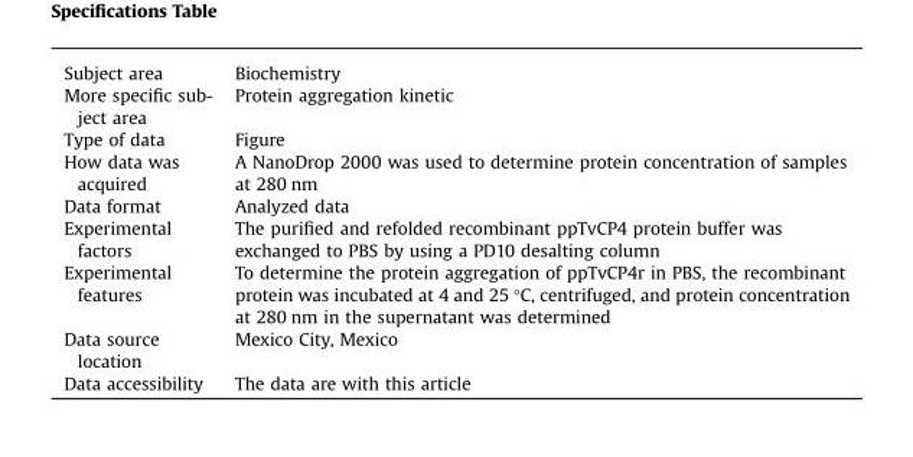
<table><tbody><tr><td>Subject area</td><td>Biochemistry</td></tr><tr><td>More specific sub- ject area</td><td>Protein aggregation kinetic</td></tr><tr><td>Type of data</td><td>Figure</td></tr><tr><td>How data was acquired</td><td>A NanoDrop 2000 was used to determine protein concentration of samples at 280 nm</td></tr><tr><td>Data format</td><td>Analyzed data</td></tr><tr><td>Experimental factors</td><td>The purified and refolded recombinant ppTvCP4 protein buffer was exchanged to PBS by using a PD10 desalting column</td></tr><tr><td>Experimental features</td><td>To determine the protein aggregation of ppTvCP4r in PBS, the recombinant protein was incubated at 4 and 25 °C, centrifuged, and protein concentration at 280 nm in the supernatant was determined</td></tr><tr><td>Data source location</td><td>Mexico City, Mexico</td></tr><tr><td>Data accessibility</td><td>The data are with this article</td></tr></tbody></table>